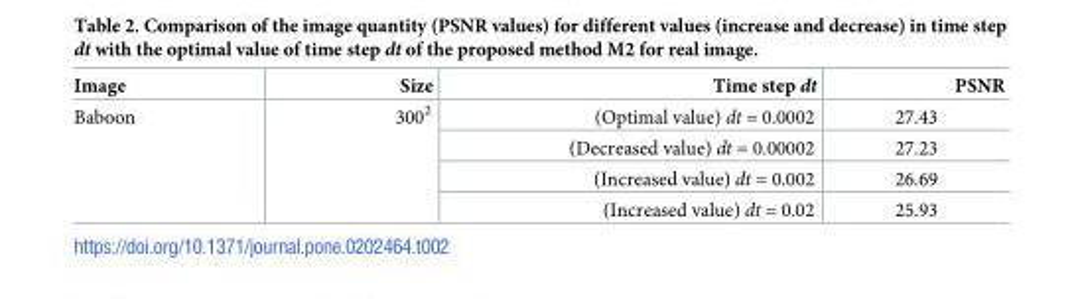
<table><thead><tr><td>Image</td><td>Size</td><td>Time step dt</td><td>PSNR</td></tr></thead><tbody><tr><td rowspan="4">Baboon</td><td rowspan="4">300<sup>2</sup></td><td>(Optimal value) dt = 0.0002</td><td>27.43</td></tr><tr><td>(Decreased value) dt = 0.00002</td><td>27.23</td></tr><tr><td>(Increased value) dt = 0.002</td><td>26.69</td></tr><tr><td>(Increased value) dt = 0.02</td><td>25.93</td></tr></tbody></table>